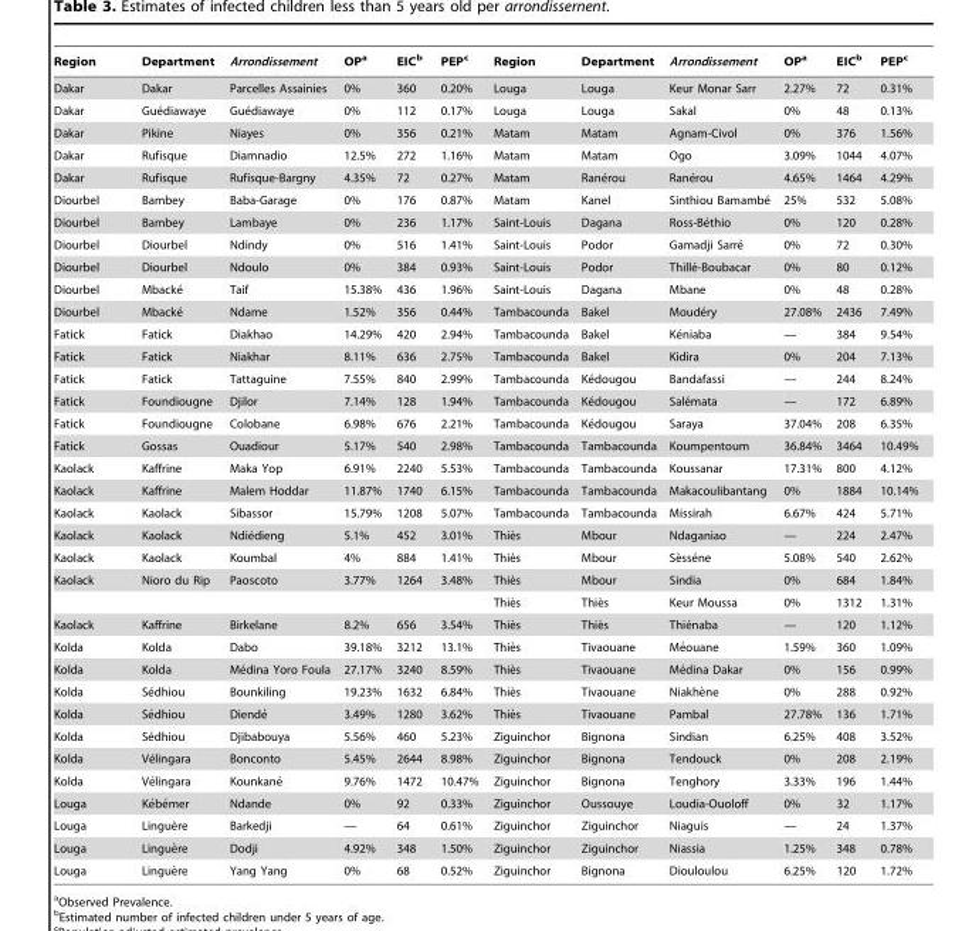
<table><thead><tr><td>Region</td><td>Department</td><td>Arrondissement</td><td>OP<sup>a</sup></td><td>EIC<sup>b</sup></td><td>PEP<sup>c</sup></td><td>Region</td><td>Department</td><td>Arrondissement</td><td>OP<sup>a</sup></td><td>EIC<sup>b</sup></td><td>PEP<sup>c</sup></td></tr></thead><tbody><tr><td>Dakar</td><td>Dakar</td><td>Parcelles Assainies</td><td>0%</td><td>360</td><td>0.20%</td><td>Louga</td><td>Louga</td><td>Keur Monar Sarr</td><td>2.27%</td><td>72</td><td>0.31%</td></tr><tr><td>Dakar</td><td>Gue´diawaye</td><td>Gue´diawaye</td><td>0%</td><td>112</td><td>0.17%</td><td>Louga</td><td>Louga</td><td>Sakal</td><td>0%</td><td>48</td><td>0.13%</td></tr><tr><td>Dakar</td><td>Pikine</td><td>Niayes</td><td>0%</td><td>356</td><td>0.21%</td><td>Matam</td><td>Matam</td><td>Agnam-Civol</td><td>0%</td><td>376</td><td>1.56%</td></tr><tr><td>Dakar</td><td>Rufisque</td><td>Diamnadio</td><td>12.5%</td><td>272</td><td>1.16%</td><td>Matam</td><td>Matam</td><td>Ogo</td><td>3.09%</td><td>1044</td><td>4.07%</td></tr><tr><td>Dakar</td><td>Rufisque</td><td>Rufisque-Bargny</td><td>4.35%</td><td>72</td><td>0.27%</td><td>Matam</td><td>Rane´rou</td><td>Rane´rou</td><td>4.65%</td><td>1464</td><td>4.29%</td></tr><tr><td>Diourbel</td><td>Bambey</td><td>Baba-Garage</td><td>0%</td><td>176</td><td>0.87%</td><td>Matam</td><td>Kanel</td><td>Sinthiou Bamambe´</td><td>25%</td><td>532</td><td>5.08%</td></tr><tr><td>Diourbel</td><td>Bambey</td><td>Lambaye</td><td>0%</td><td>236</td><td>1.17%</td><td>Saint-Louis</td><td>Dagana</td><td>Ross-Be´thio</td><td>0%</td><td>120</td><td>0.28%</td></tr><tr><td>Diourbel</td><td>Diourbel</td><td>Ndindy</td><td>0%</td><td>516</td><td>1.41%</td><td>Saint-Louis</td><td>Podor</td><td>Gamadji Sarre´</td><td>0%</td><td>72</td><td>0.30%</td></tr><tr><td>Diourbel</td><td>Diourbel</td><td>Ndoulo</td><td>0%</td><td>384</td><td>0.93%</td><td>Saint-Louis</td><td>Podor</td><td>Thille´-Boubacar</td><td>0%</td><td>80</td><td>0.12%</td></tr><tr><td>Diourbel</td><td>Mbacke´</td><td>Taif</td><td>15.38%</td><td>436</td><td>1.96%</td><td>Saint-Louis</td><td>Dagana</td><td>Mbane</td><td>0%</td><td>48</td><td>0.28%</td></tr><tr><td>Diourbel</td><td>Mbacke´</td><td>Ndame</td><td>1.52%</td><td>356</td><td>0.44%</td><td>Tambacounda</td><td>Bakel</td><td>Moude´ry</td><td>27.08%</td><td>2436</td><td>7.49%</td></tr><tr><td>Fatick</td><td>Fatick</td><td>Diakhao</td><td>14.29%</td><td>420</td><td>2.94%</td><td>Tambacounda</td><td>Bakel</td><td>Ke´niaba</td><td>—</td><td>384</td><td>9.54%</td></tr><tr><td>Fatick</td><td>Fatick</td><td>Niakhar</td><td>8.11%</td><td>636</td><td>2.75%</td><td>Tambacounda</td><td>Bakel</td><td>Kidira</td><td>0%</td><td>204</td><td>7.13%</td></tr><tr><td>Fatick</td><td>Fatick</td><td>Tattaguine</td><td>7.55%</td><td>840</td><td>2.99%</td><td>Tambacounda</td><td>Ke´dougou</td><td>Bandafassi</td><td>—</td><td>244</td><td>8.24%</td></tr><tr><td>Fatick</td><td>Foundiougne</td><td>Djilor</td><td>7.14%</td><td>128</td><td>1.94%</td><td>Tambacounda</td><td>Ke´dougou</td><td>Sale´mata</td><td>—</td><td>172</td><td>6.89%</td></tr><tr><td>Fatick</td><td>Foundiougne</td><td>Colobane</td><td>6.98%</td><td>676</td><td>2.21%</td><td>Tambacounda</td><td>Ke´dougou</td><td>Saraya</td><td>37.04%</td><td>208</td><td>6.35%</td></tr><tr><td>Fatick</td><td>Gossas</td><td>Ouadiour</td><td>5.17%</td><td>540</td><td>2.98%</td><td>Tambacounda</td><td>Tambacounda</td><td>Koumpentoum</td><td>36.84%</td><td>3464</td><td>10.49%</td></tr><tr><td>Kaolack</td><td>Kaffrine</td><td>Maka Yop</td><td>6.91%</td><td>2240</td><td>5.53%</td><td>Tambacounda</td><td>Tambacounda</td><td>Koussanar</td><td>17.31%</td><td>800</td><td>4.12%</td></tr><tr><td>Kaolack</td><td>Kaffrine</td><td>Malem Hoddar</td><td>11.87%</td><td>1740</td><td>6.15%</td><td>Tambacounda</td><td>Tambacounda</td><td>Makacoulibantang</td><td>0%</td><td>1884</td><td>10.14%</td></tr><tr><td>Kaolack</td><td>Kaolack</td><td>Sibassor</td><td>15.79%</td><td>1208</td><td>5.07%</td><td>Tambacounda</td><td>Tambacounda</td><td>Missirah</td><td>6.67%</td><td>424</td><td>5.71%</td></tr><tr><td>Kaolack</td><td>Kaolack</td><td>Ndie´dieng</td><td>5.1%</td><td>452</td><td>3.01%</td><td>Thie`s</td><td>Mbour</td><td>Ndaganiao</td><td>—</td><td>224</td><td>2.47%</td></tr><tr><td>Kaolack</td><td>Kaolack</td><td>Koumbal</td><td>4%</td><td>884</td><td>1.41%</td><td>Thie`s</td><td>Mbour</td><td>Se`sse´ne</td><td>5.08%</td><td>540</td><td>2.62%</td></tr><tr><td rowspan="2">Kaolack</td><td>Nioro du Rip</td><td>Paoscoto</td><td>3.77%</td><td>1264</td><td>3.48%</td><td>Thie`s</td><td>Mbour</td><td>Sindia</td><td>0%</td><td>684</td><td>1.84%</td></tr><tr><td></td><td></td><td></td><td></td><td></td><td>Thie`s</td><td>Thie`s</td><td>Keur Moussa</td><td>0%</td><td>1312</td><td>1.31%</td></tr><tr><td>Kaolack</td><td>Kaffrine</td><td>Birkelane</td><td>8.2%</td><td>656</td><td>3.54%</td><td>Thie`s</td><td>Thie`s</td><td>Thie´naba</td><td>—</td><td>120</td><td>1.12%</td></tr><tr><td>Kolda</td><td>Kolda</td><td>Dabo</td><td>39.18%</td><td>3212</td><td>13.1%</td><td>Thie`s</td><td>Tivaouane</td><td>Me´ouane</td><td>1.59%</td><td>360</td><td>1.09%</td></tr><tr><td>Kolda</td><td>Kolda</td><td>Me´dina Yoro Foula</td><td>27.17%</td><td>3240</td><td>8.59%</td><td>Thie`s</td><td>Tivaouane</td><td>Me´dina Dakar</td><td>0%</td><td>156</td><td>0.99%</td></tr><tr><td>Kolda</td><td>Se´dhiou</td><td>Bounkiling</td><td>19.23%</td><td>1632</td><td>6.84%</td><td>Thie`s</td><td>Tivaouane</td><td>Niakhe`ne</td><td>0%</td><td>288</td><td>0.92%</td></tr><tr><td>Kolda</td><td>Se´dhiou</td><td>Diende´</td><td>3.49%</td><td>1280</td><td>3.62%</td><td>Thie`s</td><td>Tivaouane</td><td>Pambal</td><td>27.78%</td><td>136</td><td>1.71%</td></tr><tr><td>Kolda</td><td>Se´dhiou</td><td>Djibabouya</td><td>5.56%</td><td>460</td><td>5.23%</td><td>Ziguinchor</td><td>Bignona</td><td>Sindian</td><td>6.25%</td><td>408</td><td>3.52%</td></tr><tr><td>Kolda</td><td>Ve´lingara</td><td>Bonconto</td><td>5.45%</td><td>2644</td><td>8.98%</td><td>Ziguinchor</td><td>Bignona</td><td>Tendouck</td><td>0%</td><td>208</td><td>2.19%</td></tr><tr><td>Kolda</td><td>Ve´lingara</td><td>Kounkane´</td><td>9.76%</td><td>1472</td><td>10.47%</td><td>Ziguinchor</td><td>Bignona</td><td>Tenghory</td><td>3.33%</td><td>196</td><td>1.44%</td></tr><tr><td>Louga</td><td>Ke´be´mer</td><td>Ndande</td><td>0%</td><td>92</td><td>0.33%</td><td>Ziguinchor</td><td>Oussouye</td><td>Loudia-Ouoloff</td><td>0%</td><td>32</td><td>1.17%</td></tr><tr><td>Louga</td><td>Lingue`re</td><td>Barkedji</td><td>—</td><td>64</td><td>0.61%</td><td>Ziguinchor</td><td>Ziguinchor</td><td>Niaguis</td><td>—</td><td>24</td><td>1.37%</td></tr><tr><td>Louga</td><td>Lingue`re</td><td>Dodji</td><td>4.92%</td><td>348</td><td>1.50%</td><td>Ziguinchor</td><td>Ziguinchor</td><td>Niassia</td><td>1.25%</td><td>348</td><td>0.78%</td></tr><tr><td>Louga</td><td>Lingue`re</td><td>Yang Yang</td><td>0%</td><td>68</td><td>0.52%</td><td>Ziguinchor</td><td>Bignona</td><td>Diouloulou</td><td>6.25%</td><td>120</td><td>1.72%</td></tr></tbody></table>